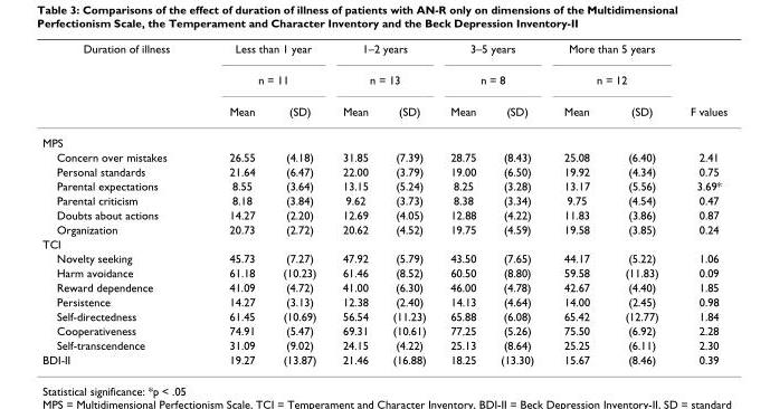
<table><thead><tr><td rowspan="3">Duration of illness</td><td rowspan="2" colspan="2">Less than 1 year n = 11</td><td rowspan="2" colspan="2">1–2 years n = 13</td><td rowspan="2" colspan="2">3–5 years n = 8</td><td rowspan="2" colspan="2">More than 5 years n = 12</td><td rowspan="3">F values</td></tr><tr></tr><tr><td>Mean</td><td>(SD)</td><td>Mean</td><td>(SD)</td><td>Mean</td><td>(SD)</td><td>Mean</td><td>(SD)</td></tr></thead><tbody><tr><td colspan="10">MPS</td></tr><tr><td>Concern over mistakes</td><td>26.55</td><td>(4.18)</td><td>31.85</td><td>(7.39)</td><td>28.75</td><td>(8.43)</td><td>25.08</td><td>(6.40)</td><td>2.41</td></tr><tr><td>Personal standards</td><td>21.64</td><td>(6.47)</td><td>22.00</td><td>(3.79)</td><td>19.00</td><td>(6.50)</td><td>19.92</td><td>(4.34)</td><td>0.75</td></tr><tr><td>Parental expectations</td><td>8.55</td><td>(3.64)</td><td>13.15</td><td>(5.24)</td><td>8.25</td><td>(3.28)</td><td>13.17</td><td>(5.56)</td><td>3.69*</td></tr><tr><td>Parental criticism</td><td>8.18</td><td>(3.84)</td><td>9.62</td><td>(3.73)</td><td>8.38</td><td>(3.34)</td><td>9.75</td><td>(4.54)</td><td>0.47</td></tr><tr><td>Doubts about actions</td><td>14.27</td><td>(2.20)</td><td>12.69</td><td>(4.05)</td><td>12.88</td><td>(4.22)</td><td>11.83</td><td>(3.86)</td><td>0.87</td></tr><tr><td>Organization</td><td>20.73</td><td>(2.72)</td><td>20.62</td><td>(4.52)</td><td>19.75</td><td>(4.59)</td><td>19.58</td><td>(3.85)</td><td>0.24</td></tr><tr><td colspan="10">TCI</td></tr><tr><td>Novelty seeking</td><td>45.73</td><td>(7.27)</td><td>47.92</td><td>(5.79)</td><td>43.50</td><td>(7.65)</td><td>44.17</td><td>(5.22)</td><td>1.06</td></tr><tr><td>Harm avoidance</td><td>61.18</td><td>(10.23)</td><td>61.46</td><td>(8.52)</td><td>60.50</td><td>(8.80)</td><td>59.58</td><td>(11.83)</td><td>0.09</td></tr><tr><td>Reward dependence</td><td>41.09</td><td>(4.72)</td><td>41.00</td><td>(6.30)</td><td>46.00</td><td>(4.78)</td><td>42.67</td><td>(4.40)</td><td>1.85</td></tr><tr><td>Persistence</td><td>14.27</td><td>(3.13)</td><td>12.38</td><td>(2.40)</td><td>14.13</td><td>(4.64)</td><td>14.00</td><td>(2.45)</td><td>0.98</td></tr><tr><td>Self-directedness</td><td>61.45</td><td>(10.69)</td><td>56.54</td><td>(11.23)</td><td>65.88</td><td>(6.08)</td><td>65.42</td><td>(12.77)</td><td>1.84</td></tr><tr><td>Cooperativeness</td><td>74.91</td><td>(5.47)</td><td>69.31</td><td>(10.61)</td><td>77.25</td><td>(5.26)</td><td>75.50</td><td>(6.92)</td><td>2.28</td></tr><tr><td>Self-transcendence</td><td>31.09</td><td>(9.02)</td><td>24.15</td><td>(4.22)</td><td>25.13</td><td>(8.64)</td><td>25.25</td><td>(6.11)</td><td>2.30</td></tr><tr><td>BDI-II</td><td>19.27</td><td>(13.87)</td><td>21.46</td><td>(16.88)</td><td>18.25</td><td>(13.30)</td><td>15.67</td><td>(8.46)</td><td>0.39</td></tr></tbody></table>